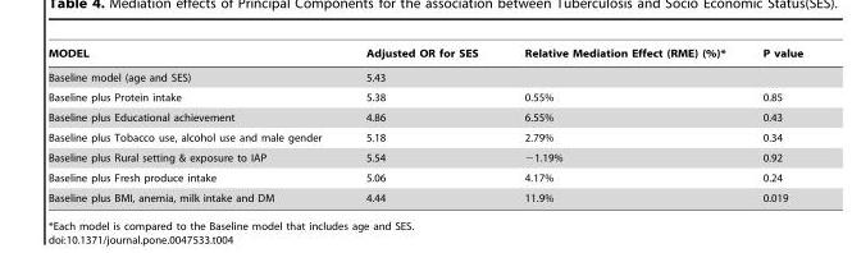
<table><thead><tr><td>MODEL</td><td>Adjusted OR for SES</td><td>Relative Mediation Effect (RME) (%)*</td><td>P value</td></tr></thead><tbody><tr><td>Baseline model (age and SES)</td><td>5.43</td><td></td><td></td></tr><tr><td>Baseline plus Protein intake</td><td>5.38</td><td>0.55%</td><td>0.85</td></tr><tr><td>Baseline plus Educational achievement</td><td>4.86</td><td>6.55%</td><td>0.43</td></tr><tr><td>Baseline plus Tobacco use, alcohol use and male gender</td><td>5.18</td><td>2.79%</td><td>0.34</td></tr><tr><td>Baseline plus Rural setting &amp; exposure to IAP</td><td>5.54</td><td>−1.19%</td><td>0.92</td></tr><tr><td>Baseline plus Fresh produce intake</td><td>5.06</td><td>4.17%</td><td>0.24</td></tr><tr><td>Baseline plus BMI, anemia, milk intake and DM</td><td>4.44</td><td>11.9%</td><td>0.019</td></tr></tbody></table>